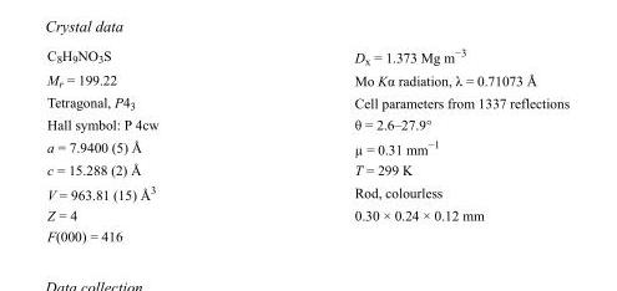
<table><tbody><tr><td>C<sub>8</sub>H<sub>9</sub>NO<sub>3</sub>S</td><td>D<sub>x</sub> = 1.373 Mg m<sup>−3</sup></td></tr><tr><td>M<sub>r</sub> = 199.22</td><td>Mo Kα radiation, λ = 0.71073 Å</td></tr><tr><td>Tetragonal, P4<sub>3</sub></td><td>Cell parameters from 1337 reflections</td></tr><tr><td>Hall symbol: P 4cw</td><td>θ = 2.6–27.9°</td></tr><tr><td>a = 7.9400 (5) Å</td><td>µ = 0.31 mm<sup>−1</sup></td></tr><tr><td>c = 15.288 (2) Å</td><td>T = 299 K</td></tr><tr><td>V = 963.81 (15) Å<sup>3</sup></td><td>Rod, colourless</td></tr><tr><td>Z = 4</td><td>0.30 × 0.24 × 0.12 mm</td></tr><tr><td>F(000) = 416</td><td></td></tr></tbody></table>